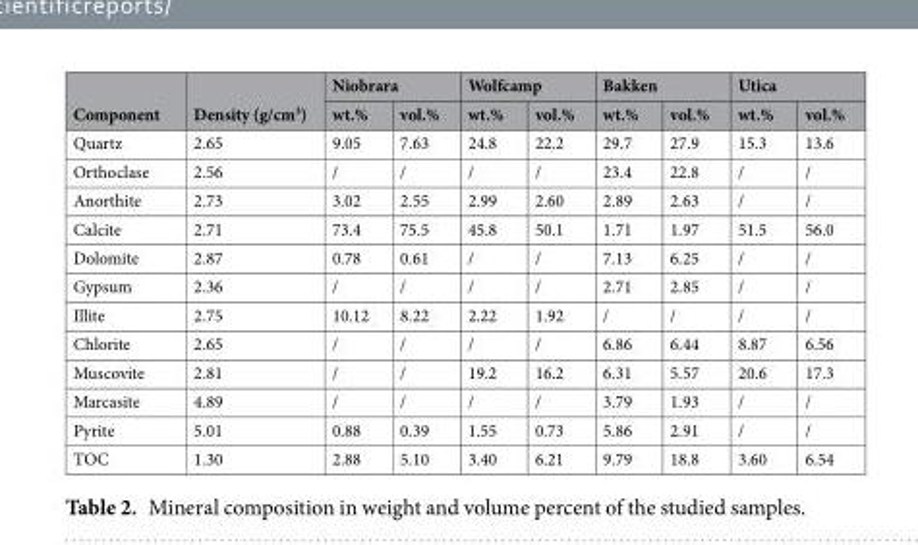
<table><thead><tr><td rowspan="2">Component</td><td rowspan="2">Density (g/cm<sup>3</sup>)</td><td colspan="2">Niobrara</td><td colspan="2">Wolfcamp</td><td colspan="2">Bakken</td><td colspan="2">Utica</td></tr><tr><td>wt.%</td><td>vol.%</td><td>wt.%</td><td>vol.%</td><td>wt.%</td><td>vol.%</td><td>wt.%</td><td>vol.%</td></tr></thead><tbody><tr><td>Quartz</td><td>2.65</td><td>9.05</td><td>7.63</td><td>24.8</td><td>22.2</td><td>29.7</td><td>27.9</td><td>15.3</td><td>13.6</td></tr><tr><td>Orthoclase</td><td>2.56</td><td>/</td><td>/</td><td>/</td><td>/</td><td>23.4</td><td>22.8</td><td>/</td><td>/</td></tr><tr><td>Anorthite</td><td>2.73</td><td>3.02</td><td>2.55</td><td>2.99</td><td>2.60</td><td>2.89</td><td>2.63</td><td>/</td><td>/</td></tr><tr><td>Calcite</td><td>2.71</td><td>73.4</td><td>75.5</td><td>45.8</td><td>50.1</td><td>1.71</td><td>1.97</td><td>51.5</td><td>56.0</td></tr><tr><td>Dolomite</td><td>2.87</td><td>0.78</td><td>0.61</td><td>/</td><td>/</td><td>7.13</td><td>6.25</td><td>/</td><td>/</td></tr><tr><td>Gypsum</td><td>2.36</td><td>/</td><td>/</td><td>/</td><td>/</td><td>2.71</td><td>2.85</td><td>/</td><td>/</td></tr><tr><td>Illite</td><td>2.75</td><td>10.12</td><td>8.22</td><td>2.22</td><td>1.92</td><td>/</td><td>/</td><td>/</td><td>/</td></tr><tr><td>Chlorite</td><td>2.65</td><td>/</td><td>/</td><td>/</td><td>/</td><td>6.86</td><td>6.44</td><td>8.87</td><td>6.56</td></tr><tr><td>Muscovite</td><td>2.81</td><td>/</td><td>/</td><td>19.2</td><td>16.2</td><td>6.31</td><td>5.57</td><td>20.6</td><td>17.3</td></tr><tr><td>Marcasite</td><td>4.89</td><td>/</td><td>/</td><td>/</td><td>/</td><td>3.79</td><td>1.93</td><td>/</td><td>/</td></tr><tr><td>Pyrite</td><td>5.01</td><td>0.88</td><td>0.39</td><td>1.55</td><td>0.73</td><td>5.86</td><td>2.91</td><td>/</td><td>/</td></tr><tr><td>TOC</td><td>1.30</td><td>2.88</td><td>5.10</td><td>3.40</td><td>6.21</td><td>9.79</td><td>18.8</td><td>3.60</td><td>6.54</td></tr></tbody></table>